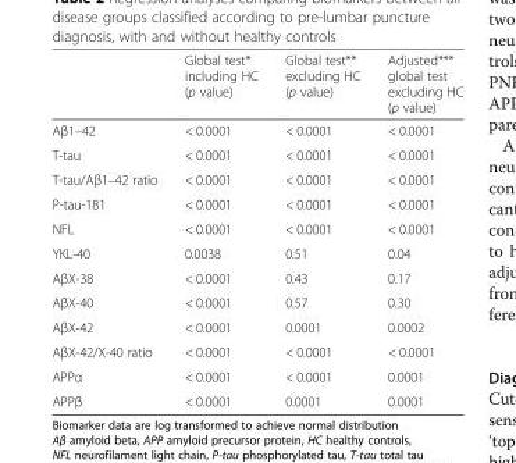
<table><thead><tr><td></td><td>Global test* including HC (p value)</td><td>Global test** excluding HC (p value)</td><td>Adjusted*** global test excluding HC (p value)</td></tr></thead><tbody><tr><td>Aβ1–42</td><td>&lt; 0.0001</td><td>&lt; 0.0001</td><td>&lt; 0.0001</td></tr><tr><td>T-tau</td><td>&lt; 0.0001</td><td>&lt; 0.0001</td><td>&lt; 0.0001</td></tr><tr><td>T-tau/Aβ1–42 ratio</td><td>&lt; 0.0001</td><td>&lt; 0.0001</td><td>&lt; 0.0001</td></tr><tr><td>P-tau-181</td><td>&lt; 0.0001</td><td>&lt; 0.0001</td><td>&lt; 0.0001</td></tr><tr><td>NFL</td><td>&lt; 0.0001</td><td>&lt; 0.0001</td><td>&lt; 0.0001</td></tr><tr><td>YKL-40</td><td>0.0038</td><td>0.51</td><td>0.04</td></tr><tr><td>AβX-38</td><td>&lt; 0.0001</td><td>0.43</td><td>0.17</td></tr><tr><td>AβX-40</td><td>&lt; 0.0001</td><td>0.57</td><td>0.30</td></tr><tr><td>AβX-42</td><td>&lt; 0.0001</td><td>0.0001</td><td>0.0002</td></tr><tr><td>AβX-42/X-40 ratio</td><td>&lt; 0.0001</td><td>&lt; 0.0001</td><td>&lt; 0.0001</td></tr><tr><td>APPα</td><td>&lt; 0.0001</td><td>&lt; 0.0001</td><td>0.0001</td></tr><tr><td>APPβ</td><td>&lt; 0.0001</td><td>0.0001</td><td>0.0001</td></tr></tbody></table>